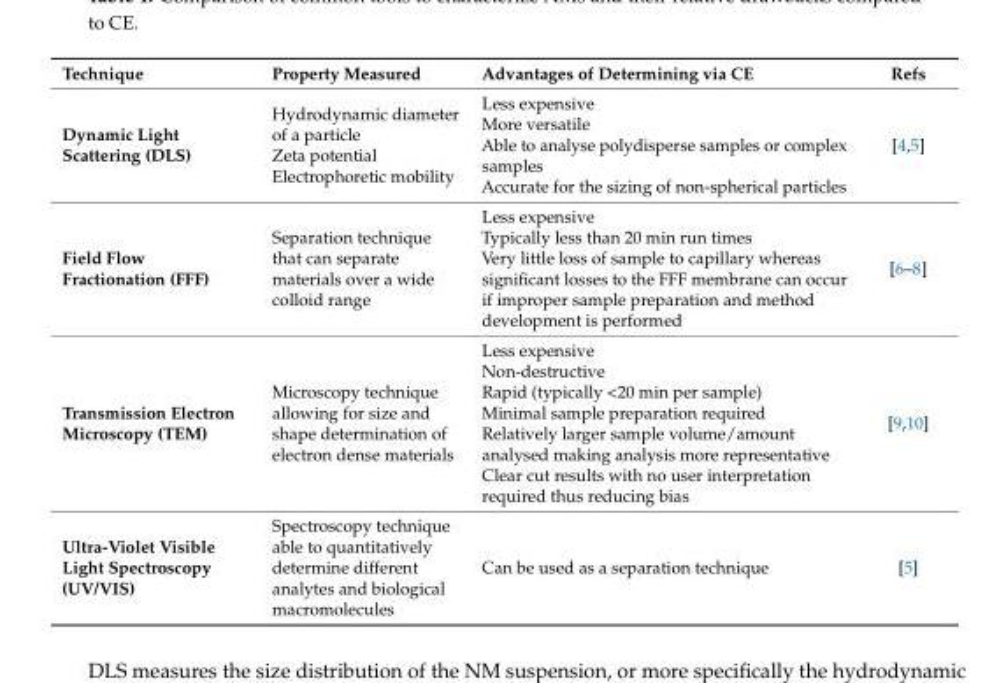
<table><thead><tr><td>Technique</td><td>Property Measured</td><td>Advantages of Determining via CE</td><td>Refs</td></tr></thead><tbody><tr><td>Dynamic Light Scattering (DLS)</td><td>Hydrodynamic diameter of a particle Zeta potential Electrophoretic mobility</td><td>Less expensive More versatile Able to analyse polydisperse samples or complex samples Accurate for the sizing of non-spherical particles</td><td>[4,5]</td></tr><tr><td>Field Flow Fractionation (FFF)</td><td>Separation technique that can separate materials over a wide colloid range</td><td>Less expensive Typically less than 20 min run times Very little loss of sample to capillary whereas significant losses to the FFF membrane can occur if improper sample preparation and method development is performed</td><td>[6–8]</td></tr><tr><td>Transmission Electron Microscopy (TEM)</td><td>Microscopy technique allowing for size and shape determination of electron dense materials</td><td>Less expensive Non-destructive Rapid (typically &lt;20 min per sample) Minimal sample preparation required Relatively larger sample volume/amount analysed making analysis more representative Clear cut results with no user interpretation required thus reducing bias</td><td>[9,10]</td></tr><tr><td>Ultra-Violet Visible Light Spectroscopy (UV/VIS)</td><td>Spectroscopy technique able to quantitatively determine different analytes and biological macromolecules</td><td>Can be used as a separation technique</td><td>[5]</td></tr></tbody></table>